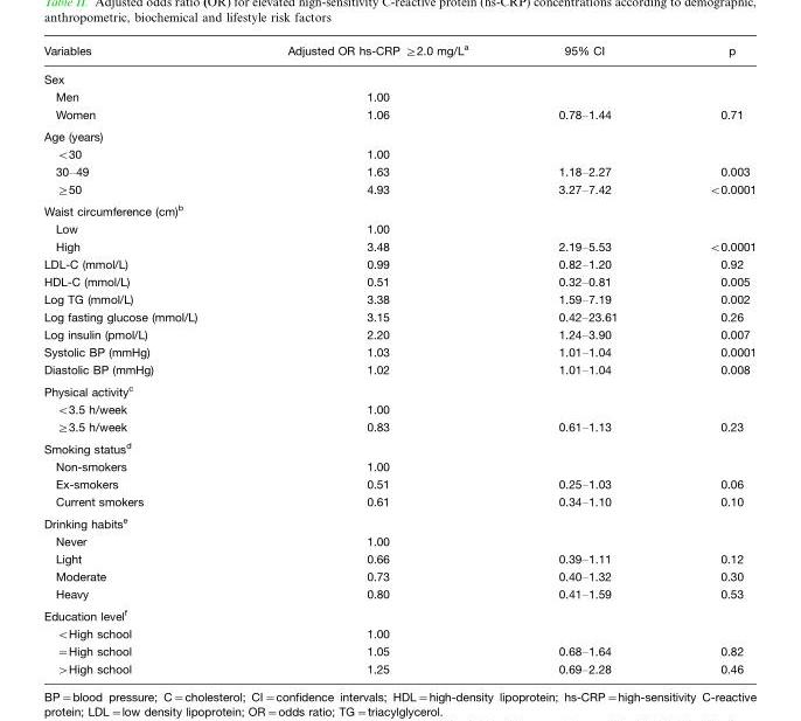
<table><thead><tr><td>Variables</td><td>Adjusted OR hs-CRP ≥2.0 mg/L<sup>a</sup></td><td>95% CI</td><td>p</td></tr></thead><tbody><tr><td colspan="4">Sex</td></tr><tr><td>Men</td><td>1.00</td><td></td><td></td></tr><tr><td>Women</td><td>1.06</td><td>0.78–1.44</td><td>0.71</td></tr><tr><td colspan="4">Age (years)</td></tr><tr><td>&lt;30</td><td>1.00</td><td></td><td></td></tr><tr><td>30–49</td><td>1.63</td><td>1.18–2.27</td><td>0.003</td></tr><tr><td>≥50</td><td>4.93</td><td>3.27–7.42</td><td>&lt;0.0001</td></tr><tr><td colspan="4">Waist circumference (cm)<sup>b</sup></td></tr><tr><td>Low</td><td>1.00</td><td></td><td></td></tr><tr><td>High</td><td>3.48</td><td>2.19–5.53</td><td>&lt;0.0001</td></tr><tr><td>LDL-C (mmol/L)</td><td>0.99</td><td>0.82–1.20</td><td>0.92</td></tr><tr><td>HDL-C (mmol/L)</td><td>0.51</td><td>0.32–0.81</td><td>0.005</td></tr><tr><td>Log TG (mmol/L)</td><td>3.38</td><td>1.59–7.19</td><td>0.002</td></tr><tr><td>Log fasting glucose (mmol/L)</td><td>3.15</td><td>0.42–23.61</td><td>0.26</td></tr><tr><td>Log insulin (pmol/L)</td><td>2.20</td><td>1.24–3.90</td><td>0.007</td></tr><tr><td>Systolic BP (mmHg)</td><td>1.03</td><td>1.01–1.04</td><td>0.0001</td></tr><tr><td>Diastolic BP (mmHg)</td><td>1.02</td><td>1.01–1.04</td><td>0.008</td></tr><tr><td colspan="4">Physical activity<sup>c</sup></td></tr><tr><td>&lt;3.5 h/week</td><td>1.00</td><td></td><td></td></tr><tr><td>≥3.5 h/week</td><td>0.83</td><td>0.61–1.13</td><td>0.23</td></tr><tr><td colspan="4">Smoking status<sup>d</sup></td></tr><tr><td>Non-smokers</td><td>1.00</td><td></td><td></td></tr><tr><td>Ex-smokers</td><td>0.51</td><td>0.25–1.03</td><td>0.06</td></tr><tr><td>Current smokers</td><td>0.61</td><td>0.34–1.10</td><td>0.10</td></tr><tr><td colspan="4">Drinking habits<sup>e</sup></td></tr><tr><td>Never</td><td>1.00</td><td></td><td></td></tr><tr><td>Light</td><td>0.66</td><td>0.39–1.11</td><td>0.12</td></tr><tr><td>Moderate</td><td>0.73</td><td>0.40–1.32</td><td>0.30</td></tr><tr><td>Heavy</td><td>0.80</td><td>0.41–1.59</td><td>0.53</td></tr><tr><td colspan="4">Education level<sup>f</sup></td></tr><tr><td>&lt;High school</td><td>1.00</td><td></td><td></td></tr><tr><td>=High school</td><td>1.05</td><td>0.68–1.64</td><td>0.82</td></tr><tr><td>&gt;High school</td><td>1.25</td><td>0.69–2.28</td><td>0.46</td></tr></tbody></table>